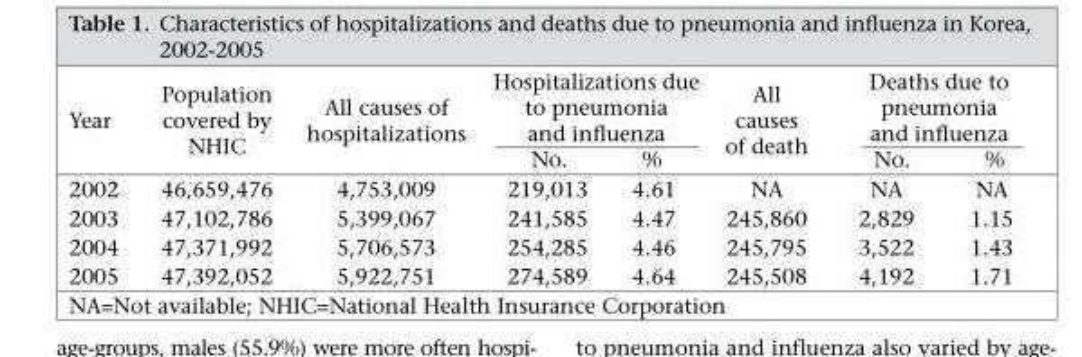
<table><thead><tr><td rowspan="2">Year</td><td rowspan="2">Population covered by NHIC</td><td rowspan="2">All causes of hospitalizations</td><td colspan="2">Hospitalizations due to pneumonia and influenza</td><td rowspan="2">All causes of death</td><td colspan="2">Deaths due to pneumonia and influenza</td></tr><tr><td>No.</td><td>%</td><td>No.</td><td>%</td></tr></thead><tbody><tr><td>2002</td><td>46,659,476</td><td>4,753,009</td><td>219,013</td><td>4.61</td><td>NA</td><td>NA</td><td>NA</td></tr><tr><td>2003</td><td>47,102,786</td><td>5,399,067</td><td>241,585</td><td>4.47</td><td>245,860</td><td>2,829</td><td>1.15</td></tr><tr><td>2004</td><td>47,371,992</td><td>5,706,573</td><td>254,285</td><td>4.46</td><td>245,795</td><td>3,522</td><td>1.43</td></tr><tr><td>2005</td><td>47,392,052</td><td>5,922,751</td><td>274,589</td><td>4.64</td><td>245,508</td><td>4,192</td><td>1.71</td></tr></tbody></table>